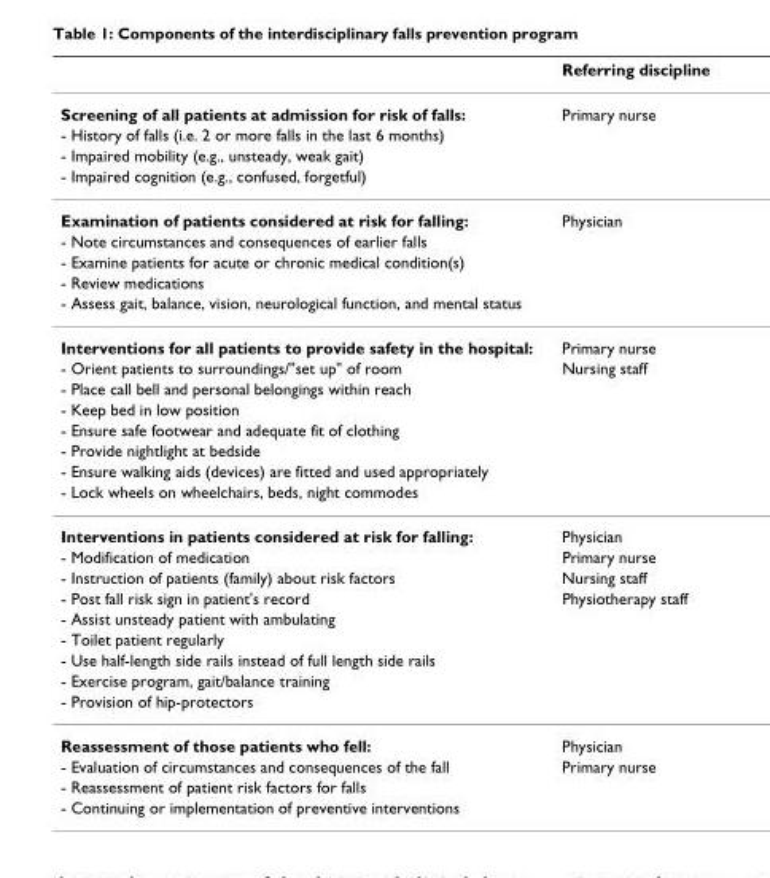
<table><thead><tr><td></td><td>Referring discipline</td></tr></thead><tbody><tr><td>Screening of all patients at admission for risk of falls:</td><td>Primary nurse</td></tr><tr><td colspan="2">- History of falls (i.e. 2 or more falls in the last 6 months)</td></tr><tr><td colspan="2">- Impaired mobility (e.g., unsteady, weak gait)</td></tr><tr><td colspan="2">- Impaired cognition (e.g., confused, forgetful)</td></tr><tr><td>Examination of patients considered at risk for falling:</td><td>Physician</td></tr><tr><td colspan="2">- Note circumstances and consequences of earlier falls</td></tr><tr><td colspan="2">- Examine patients for acute or chronic medical condition(s)</td></tr><tr><td colspan="2">- Review medications</td></tr><tr><td colspan="2">- Assess gait, balance, vision, neurological function, and mental status</td></tr><tr><td>Interventions for all patients to provide safety in the hospital:</td><td>Primary nurse</td></tr><tr><td>- Orient patients to surroundings/&quot;set up&quot; of room</td><td>Nursing staff</td></tr><tr><td colspan="2">- Place call bell and personal belongings within reach</td></tr><tr><td colspan="2">- Keep bed in low position</td></tr><tr><td colspan="2">- Ensure safe footwear and adequate fit of clothing</td></tr><tr><td colspan="2">- Provide nightlight at bedside</td></tr><tr><td colspan="2">- Ensure walking aids (devices) are fitted and used appropriately</td></tr><tr><td colspan="2">- Lock wheels on wheelchairs, beds, night commodes</td></tr><tr><td>Interventions in patients considered at risk for falling:</td><td>Physician</td></tr><tr><td>- Modification of medication</td><td>Primary nurse</td></tr><tr><td>- Instruction of patients (family) about risk factors</td><td>Nursing staff</td></tr><tr><td>- Post fall risk sign in patient&#x27;s record</td><td>Physiotherapy staff</td></tr><tr><td colspan="2">- Assist unsteady patient with ambulating</td></tr><tr><td colspan="2">- Toilet patient regularly</td></tr><tr><td colspan="2">- Use half-length side rails instead of full length side rails</td></tr><tr><td colspan="2">- Exercise program, gait/balance training</td></tr><tr><td colspan="2">- Provision of hip-protectors</td></tr><tr><td>Reassessment of those patients who fell:</td><td>Physician</td></tr><tr><td>- Evaluation of circumstances and consequences of the fall</td><td>Primary nurse</td></tr><tr><td colspan="2">- Reassessment of patient risk factors for falls</td></tr><tr><td>- Continuing or implementation of preventive interventions</td><td></td></tr></tbody></table>